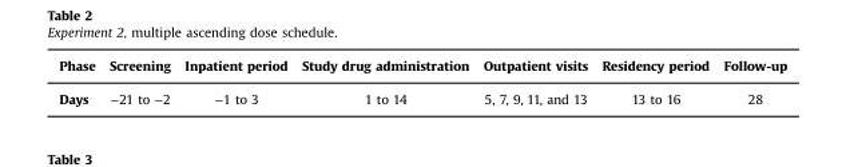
<table><thead><tr><td>Phase</td><td>Screening</td><td>Inpatient period</td><td>Study drug administration</td><td>Outpatient visits</td><td>Residency period</td><td>Follow-up</td></tr></thead><tbody><tr><td>Days</td><td>−21 to −2</td><td>−1 to 3</td><td>1 to 14</td><td>5, 7, 9, 11, and 13</td><td>13 to 16</td><td>28</td></tr></tbody></table>